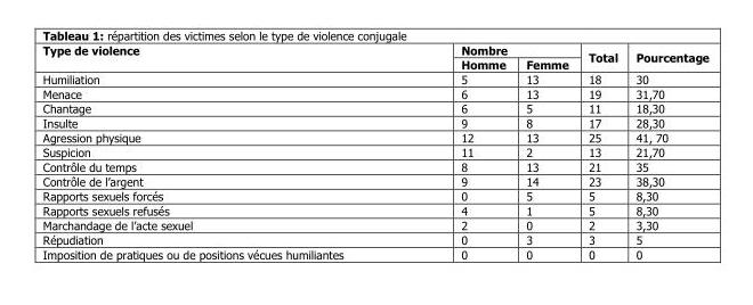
<table><thead><tr><td rowspan="2">Type de violence</td><td colspan="2">Nombre</td><td rowspan="2">Total</td><td rowspan="2">Pourcentage</td></tr><tr><td>Homme</td><td>Femme</td></tr></thead><tbody><tr><td>Humiliation</td><td>5</td><td>13</td><td>18</td><td>30</td></tr><tr><td>Menace</td><td>6</td><td>13</td><td>19</td><td>31,70</td></tr><tr><td>Chantage</td><td>6</td><td>5</td><td>11</td><td>18,30</td></tr><tr><td>Insulte</td><td>9</td><td>8</td><td>17</td><td>28,30</td></tr><tr><td>Agression physique</td><td>12</td><td>13</td><td>25</td><td>41, 70</td></tr><tr><td>Suspicion</td><td>11</td><td>2</td><td>13</td><td>21,70</td></tr><tr><td>Contrôle du temps</td><td>8</td><td>13</td><td>21</td><td>35</td></tr><tr><td>Contrôle de l’argent</td><td>9</td><td>14</td><td>23</td><td>38,30</td></tr><tr><td>Rapports sexuels forcés</td><td>0</td><td>5</td><td>5</td><td>8,30</td></tr><tr><td>Rapports sexuels refusés</td><td>4</td><td>1</td><td>5</td><td>8,30</td></tr><tr><td>Marchandage de l’acte sexuel</td><td>2</td><td>0</td><td>2</td><td>3,30</td></tr><tr><td>Répudiation</td><td>0</td><td>3</td><td>3</td><td>5</td></tr><tr><td>Imposition de pratiques ou de positions vécues humiliantes</td><td>0</td><td>0</td><td>0</td><td>0</td></tr></tbody></table>